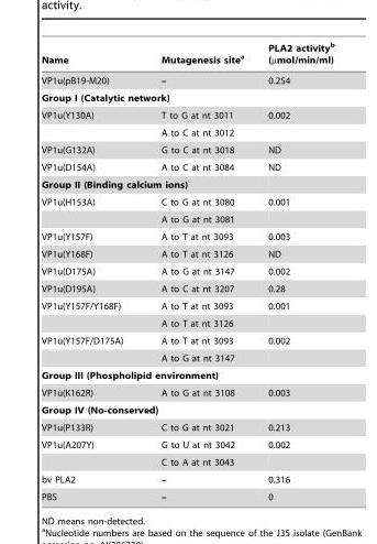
<table><thead><tr><td>Name</td><td>Mutagenesis site<sup>a</sup></td><td>PLA2 activity<sup>b</sup> (µmol/min/ml)</td></tr></thead><tbody><tr><td>VP1u(pB19-M20)</td><td>–</td><td>0.254</td></tr><tr><td colspan="3">Group I (Catalytic network)</td></tr><tr><td rowspan="2">VP1u(Y130A)</td><td>T to G at nt 3011</td><td>0.002</td></tr><tr><td>A to C at nt 3012</td><td></td></tr><tr><td>VP1u(G132A)</td><td>G to C at nt 3018</td><td>ND</td></tr><tr><td>VP1u(D154A)</td><td>A to C at nt 3084</td><td>ND</td></tr><tr><td colspan="3">Group II (Binding calcium ions)</td></tr><tr><td rowspan="2">VP1u(H153A)</td><td>C to G at nt 3080</td><td>0.001</td></tr><tr><td>A to G at nt 3081</td><td></td></tr><tr><td>VP1u(Y157F)</td><td>A to T at nt 3093</td><td>0.003</td></tr><tr><td>VP1u(Y168F)</td><td>A to T at nt 3126</td><td>ND</td></tr><tr><td>VP1u(D175A)</td><td>A to G at nt 3147</td><td>0.002</td></tr><tr><td>VP1u(D195A)</td><td>A to C at nt 3207</td><td>0.28</td></tr><tr><td rowspan="2">VP1u(Y157F/Y168F)</td><td>A to T at nt 3093</td><td>0.001</td></tr><tr><td>A to T at nt 3126</td><td></td></tr><tr><td rowspan="2">VP1u(Y157F/D175A)</td><td>A to T at nt 3093</td><td>0.002</td></tr><tr><td>A to G at nt 3147</td><td></td></tr><tr><td colspan="3">Group III (Phospholipid environment)</td></tr><tr><td>VP1u(K162R)</td><td>A to G at nt 3108</td><td>0.003</td></tr><tr><td colspan="3">Group IV (No-conserved)</td></tr><tr><td>VP1u(P133R)</td><td>C to G at nt 3021</td><td>0.213</td></tr><tr><td rowspan="2">VP1u(A207Y)</td><td>G to U at nt 3042</td><td>0.002</td></tr><tr><td>C to A at nt 3043</td><td></td></tr><tr><td>bv PLA2</td><td>–</td><td>0.316</td></tr><tr><td>PBS</td><td>–</td><td>0</td></tr></tbody></table>